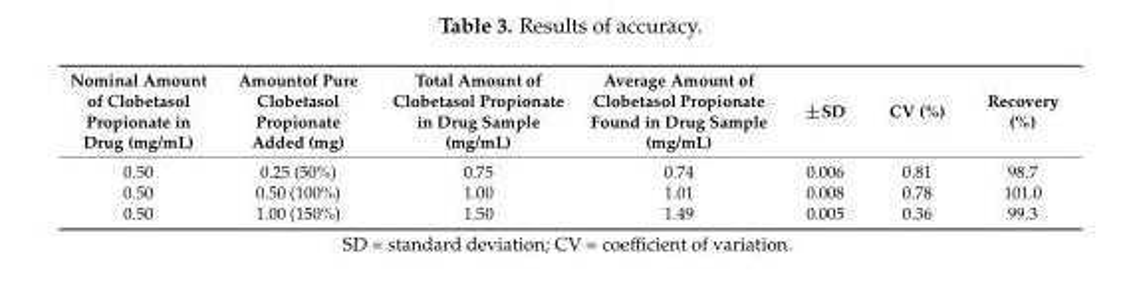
<table><thead><tr><td>Nominal Amount of Clobetasol Propionate in Drug (mg/mL)</td><td>Amountof Pure Clobetasol Propionate Added (mg)</td><td>Total Amount of Clobetasol Propionate in Drug Sample (mg/mL)</td><td>Average Amount of Clobetasol Propionate Found in Drug Sample (mg/mL)</td><td>±SD</td><td>CV (%)</td><td>Recovery (%)</td></tr></thead><tbody><tr><td>0.50</td><td>0.25 (50%)</td><td>0.75</td><td>0.74</td><td>0.006</td><td>0.81</td><td>98.7</td></tr><tr><td>0.50</td><td>0.50 (100%)</td><td>1.00</td><td>1.01</td><td>0.008</td><td>0.78</td><td>101.0</td></tr><tr><td>0.50</td><td>1.00 (150%)</td><td>1.50</td><td>1.49</td><td>0.005</td><td>0.36</td><td>99.3</td></tr></tbody></table>